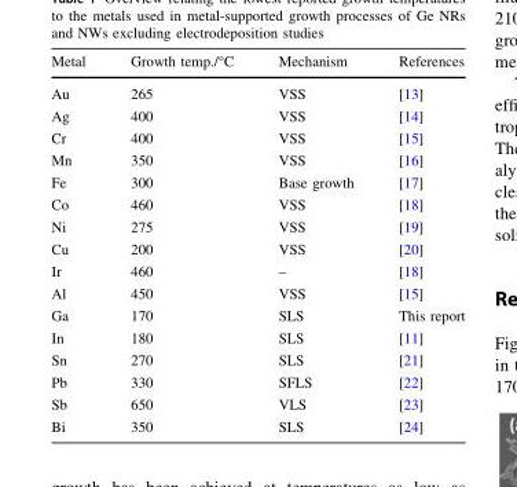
<table><thead><tr><td>Metal</td><td>Growth temp./°C</td><td>Mechanism</td><td>References</td></tr></thead><tbody><tr><td>Au</td><td>265</td><td>VSS</td><td>[13]</td></tr><tr><td>Ag</td><td>400</td><td>VSS</td><td>[14]</td></tr><tr><td>Cr</td><td>400</td><td>VSS</td><td>[15]</td></tr><tr><td>Mn</td><td>350</td><td>VSS</td><td>[16]</td></tr><tr><td>Fe</td><td>300</td><td>Base growth</td><td>[17]</td></tr><tr><td>Co</td><td>460</td><td>VSS</td><td>[18]</td></tr><tr><td>Ni</td><td>275</td><td>VSS</td><td>[19]</td></tr><tr><td>Cu</td><td>200</td><td>VSS</td><td>[20]</td></tr><tr><td>Ir</td><td>460</td><td>–</td><td>[18]</td></tr><tr><td>Al</td><td>450</td><td>VSS</td><td>[15]</td></tr><tr><td>Ga</td><td>170</td><td>SLS</td><td>This report</td></tr><tr><td>In</td><td>180</td><td>SLS</td><td>[11]</td></tr><tr><td>Sn</td><td>270</td><td>SLS</td><td>[21]</td></tr><tr><td>Pb</td><td>330</td><td>SFLS</td><td>[22]</td></tr><tr><td>Sb</td><td>650</td><td>VLS</td><td>[23]</td></tr><tr><td>Bi</td><td>350</td><td>SLS</td><td>[24]</td></tr></tbody></table>